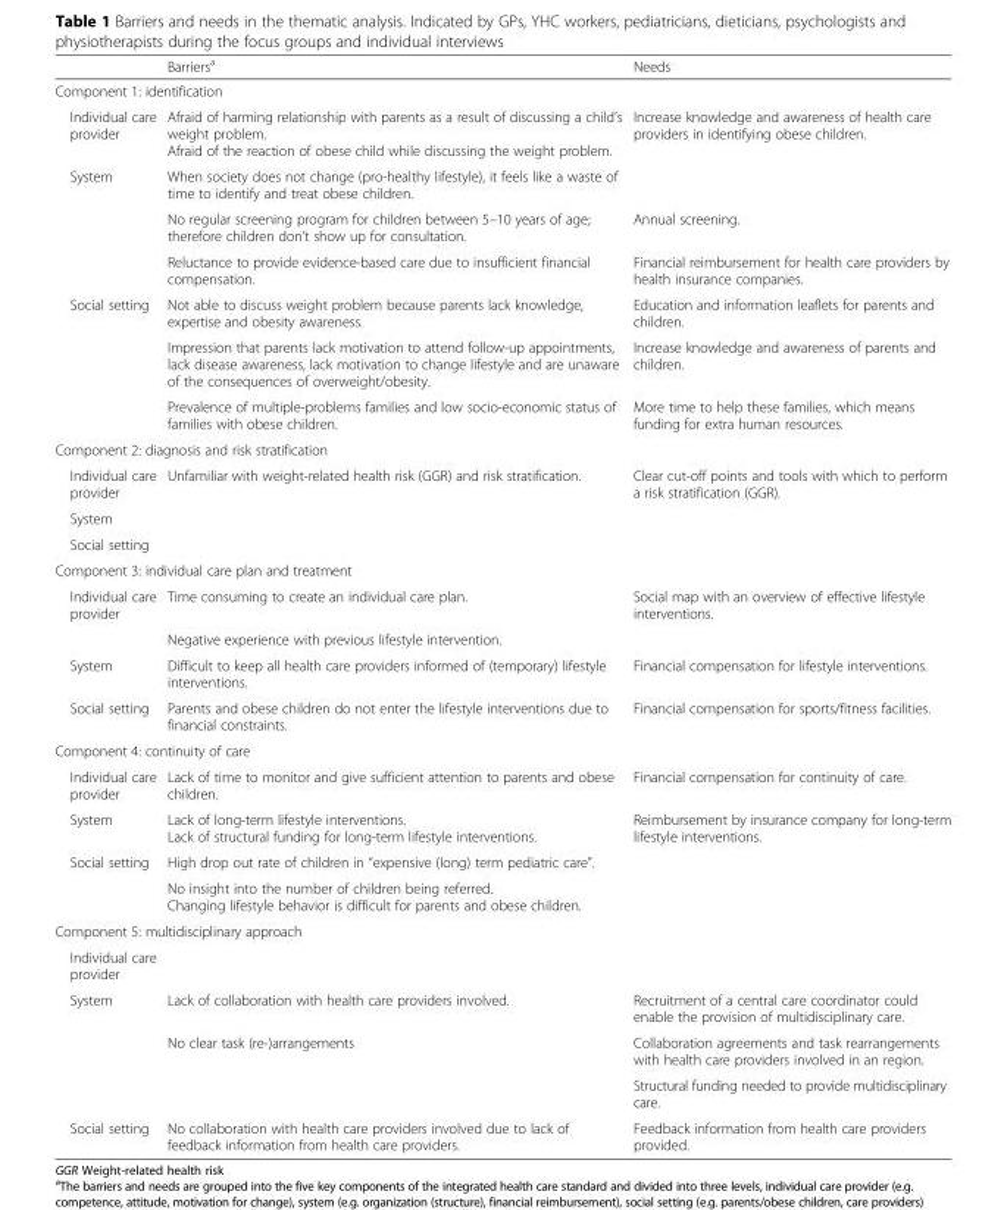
<table><thead><tr><td></td><td>Barriers<sup>a</sup></td><td>Needs</td></tr></thead><tbody><tr><td colspan="3">Component 1: identification</td></tr><tr><td>Individual care provider</td><td>Afraid of harming relationship with parents as a result of discussing a child’s weight problem. Afraid of the reaction of obese child while discussing the weight problem.</td><td>Increase knowledge and awareness of health care providers in identifying obese children.</td></tr><tr><td rowspan="3">System</td><td>When society does not change (pro-healthy lifestyle), it feels like a waste of time to identify and treat obese children.</td><td></td></tr><tr><td>No regular screening program for children between 5–10 years of age; therefore children don’t show up for consultation.</td><td>Annual screening.</td></tr><tr><td>Reluctance to provide evidence-based care due to insufficient financial compensation.</td><td>Financial reimbursement for health care providers by health insurance companies.</td></tr><tr><td rowspan="3">Social setting</td><td>Not able to discuss weight problem because parents lack knowledge, expertise and obesity awareness.</td><td>Education and information leaflets for parents and children.</td></tr><tr><td>Impression that parents lack motivation to attend follow-up appointments, lack disease awareness, lack motivation to change lifestyle and are unaware of the consequences of overweight/obesity.</td><td>Increase knowledge and awareness of parents and children.</td></tr><tr><td>Prevalence of multiple-problems families and low socio-economic status of families with obese children.</td><td>More time to help these families, which means funding for extra human resources.</td></tr><tr><td colspan="3">Component 2: diagnosis and risk stratification</td></tr><tr><td>Individual care provider</td><td>Unfamiliar with weight-related health risk (GGR) and risk stratification.</td><td>Clear cut-off points and tools with which to perform a risk stratification (GGR).</td></tr><tr><td colspan="3">System</td></tr><tr><td colspan="3">Social setting</td></tr><tr><td colspan="3">Component 3: individual care plan and treatment</td></tr><tr><td rowspan="2">Individual care provider</td><td>Time consuming to create an individual care plan.</td><td>Social map with an overview of effective lifestyle interventions.</td></tr><tr><td>Negative experience with previous lifestyle intervention.</td><td></td></tr><tr><td>System</td><td>Difficult to keep all health care providers informed of (temporary) lifestyle interventions.</td><td>Financial compensation for lifestyle interventions.</td></tr><tr><td>Social setting</td><td>Parents and obese children do not enter the lifestyle interventions due to financial constraints.</td><td>Financial compensation for sports/fitness facilities.</td></tr><tr><td colspan="3">Component 4: continuity of care</td></tr><tr><td>Individual care provider</td><td>Lack of time to monitor and give sufficient attention to parents and obese children.</td><td>Financial compensation for continuity of care.</td></tr><tr><td>System</td><td>Lack of long-term lifestyle interventions. Lack of structural funding for long-term lifestyle interventions.</td><td>Reimbursement by insurance company for long-term lifestyle interventions.</td></tr><tr><td rowspan="2">Social setting</td><td>High drop out rate of children in “expensive (long) term pediatric care”.</td><td></td></tr><tr><td>No insight into the number of children being referred. Changing lifestyle behavior is difficult for parents and obese children.</td><td></td></tr><tr><td colspan="3">Component 5: multidisciplinary approach</td></tr><tr><td colspan="3">Individual care provider</td></tr><tr><td rowspan="3">System</td><td>Lack of collaboration with health care providers involved.</td><td>Recruitment of a central care coordinator could enable the provision of multidisciplinary care.</td></tr><tr><td>No clear task (re-)arrangements</td><td>Collaboration agreements and task rearrangements with health care providers involved in an region.</td></tr><tr><td></td><td>Structural funding needed to provide multidisciplinary care.</td></tr><tr><td>Social setting</td><td>No collaboration with health care providers involved due to lack of feedback information from health care providers.</td><td>Feedback information from health care providers provided.</td></tr></tbody></table>